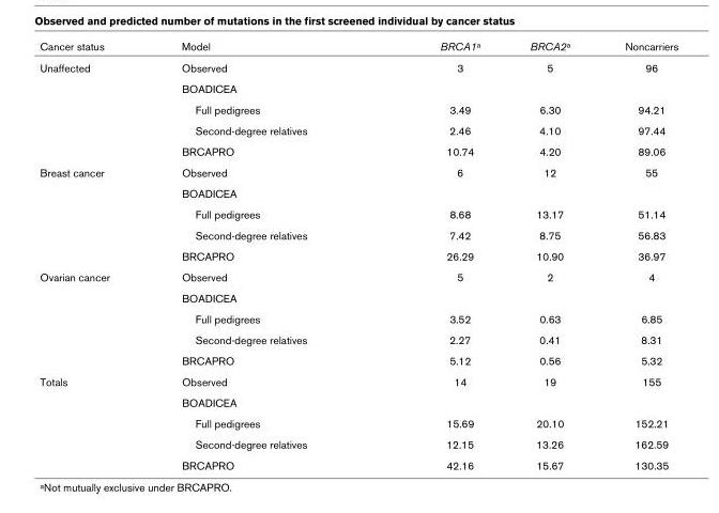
<table><thead><tr><td>Cancer status</td><td>Model</td><td>BRCA1a</td><td>BRCA2a</td><td>Noncarriers</td></tr></thead><tbody><tr><td rowspan="5">Unaffected</td><td>Observed</td><td>3</td><td>5</td><td>96</td></tr><tr><td colspan="4">BOADICEA</td></tr><tr><td>Full pedigrees</td><td>3.49</td><td>6.30</td><td>94.21</td></tr><tr><td>Second-degree relatives</td><td>2.46</td><td>4.10</td><td>97.44</td></tr><tr><td>BRCAPRO</td><td>10.74</td><td>4.20</td><td>89.06</td></tr><tr><td rowspan="5">Breast cancer</td><td>Observed</td><td>6</td><td>12</td><td>55</td></tr><tr><td colspan="4">BOADICEA</td></tr><tr><td>Full pedigrees</td><td>8.68</td><td>13.17</td><td>51.14</td></tr><tr><td>Second-degree relatives</td><td>7.42</td><td>8.75</td><td>56.83</td></tr><tr><td>BRCAPRO</td><td>26.29</td><td>10.90</td><td>36.97</td></tr><tr><td rowspan="5">Ovarian cancer</td><td>Observed</td><td>5</td><td>2</td><td>4</td></tr><tr><td colspan="4">BOADICEA</td></tr><tr><td>Full pedigrees</td><td>3.52</td><td>0.63</td><td>6.85</td></tr><tr><td>Second-degree relatives</td><td>2.27</td><td>0.41</td><td>8.31</td></tr><tr><td>BRCAPRO</td><td>5.12</td><td>0.56</td><td>5.32</td></tr><tr><td rowspan="5">Totals</td><td>Observed</td><td>14</td><td>19</td><td>155</td></tr><tr><td colspan="4">BOADICEA</td></tr><tr><td>Full pedigrees</td><td>15.69</td><td>20.10</td><td>152.21</td></tr><tr><td>Second-degree relatives</td><td>12.15</td><td>13.26</td><td>162.59</td></tr><tr><td>BRCAPRO</td><td>42.16</td><td>15.67</td><td>130.35</td></tr></tbody></table>